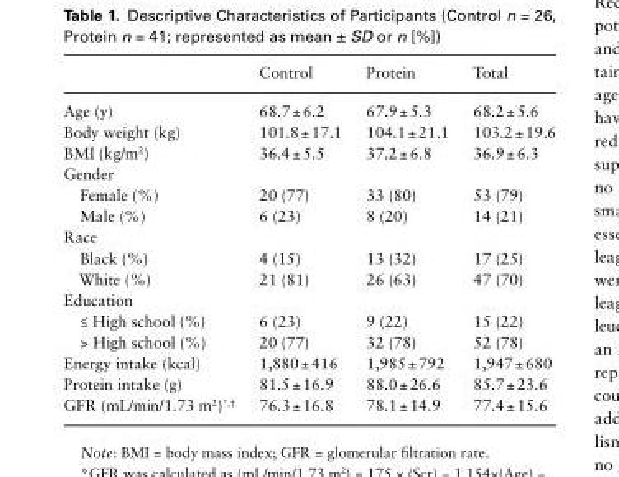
<table><thead><tr><td></td><td>Control</td><td>Protein</td><td>Total</td></tr></thead><tbody><tr><td>Age (y)</td><td>68.7 ± 6.2</td><td>67.9 ± 5.3</td><td>68.2 ± 5.6</td></tr><tr><td>Body weight (kg)</td><td>101.8 ± 17.1</td><td>104.1 ± 21.1</td><td>103.2 ± 19.6</td></tr><tr><td>BMI (kg/m<sup>2</sup>)</td><td>36.4 ± 5.5</td><td>37.2 ± 6.8</td><td>36.9 ± 6.3</td></tr><tr><td colspan="4">Gender</td></tr><tr><td>Female (%)</td><td>20 (77)</td><td>33 (80)</td><td>53 (79)</td></tr><tr><td>Male (%)</td><td>6 (23)</td><td>8 (20)</td><td>14 (21)</td></tr><tr><td colspan="4">Race</td></tr><tr><td>Black (%)</td><td>4 (15)</td><td>13 (32)</td><td>17 (25)</td></tr><tr><td>White (%)</td><td>21 (81)</td><td>26 (63)</td><td>47 (70)</td></tr><tr><td colspan="4">Education</td></tr><tr><td>≤ High school (%)</td><td>6 (23)</td><td>9 (22)</td><td>15 (22)</td></tr><tr><td>&gt; High school (%)</td><td>20 (77)</td><td>32 (78)</td><td>52 (78)</td></tr><tr><td>Energy intake (kcal)</td><td>1,880 ± 416</td><td>1,985 ± 792</td><td>1,947 ± 680</td></tr><tr><td>Protein intake (g)</td><td>81.5 ± 16.9</td><td>88.0 ± 26.6</td><td>85.7 ± 23.6</td></tr><tr><td>GFR (mL/min/1.73 m<sup>2</sup>)<sup>*,†</sup></td><td>76.3 ± 16.8</td><td>78.1 ± 14.9</td><td>77.4 ± 15.6</td></tr></tbody></table>